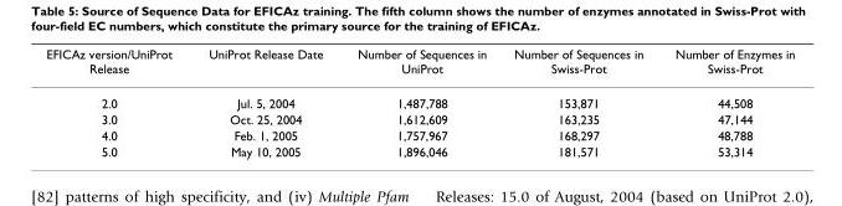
<table><thead><tr><td>EFICAz version/UniProt Release</td><td>UniProt Release Date</td><td>Number of Sequences in UniProt</td><td>Number of Sequences in Swiss-Prot</td><td>Number of Enzymes in Swiss-Prot</td></tr></thead><tbody><tr><td>2.0</td><td>Jul. 5, 2004</td><td>1,487,788</td><td>153,871</td><td>44,508</td></tr><tr><td>3.0</td><td>Oct. 25, 2004</td><td>1,612,609</td><td>163,235</td><td>47,144</td></tr><tr><td>4.0</td><td>Feb. 1, 2005</td><td>1,757,967</td><td>168,297</td><td>48,788</td></tr><tr><td>5.0</td><td>May 10, 2005</td><td>1,896,046</td><td>181,571</td><td>53,314</td></tr></tbody></table>